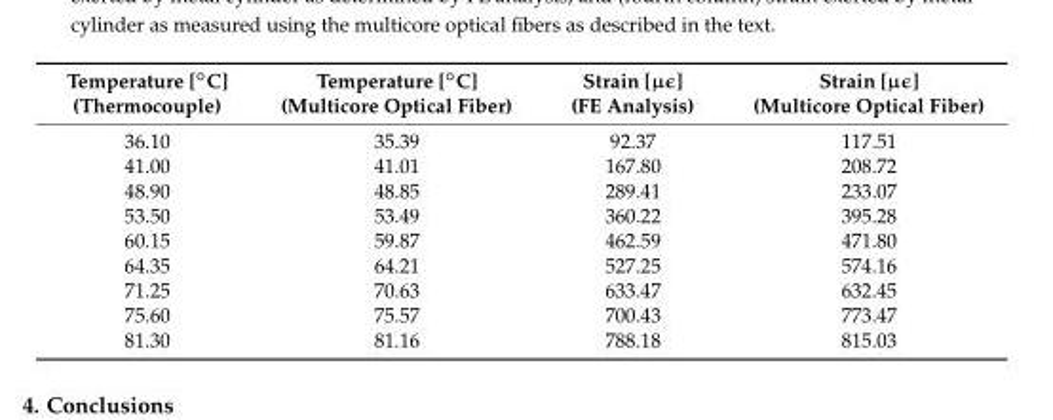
<table><thead><tr><td>Temperature [◦C] (Thermocouple)</td><td>Temperature [◦C] (Multicore Optical Fiber)</td><td>Strain [µϵ] (FE Analysis)</td><td>Strain [µϵ] (Multicore Optical Fiber)</td></tr></thead><tbody><tr><td>36.10</td><td>35.39</td><td>92.37</td><td>117.51</td></tr><tr><td>41.00</td><td>41.01</td><td>167.80</td><td>208.72</td></tr><tr><td>48.90</td><td>48.85</td><td>289.41</td><td>233.07</td></tr><tr><td>53.50</td><td>53.49</td><td>360.22</td><td>395.28</td></tr><tr><td>60.15</td><td>59.87</td><td>462.59</td><td>471.80</td></tr><tr><td>64.35</td><td>64.21</td><td>527.25</td><td>574.16</td></tr><tr><td>71.25</td><td>70.63</td><td>633.47</td><td>632.45</td></tr><tr><td>75.60</td><td>75.57</td><td>700.43</td><td>773.47</td></tr><tr><td>81.30</td><td>81.16</td><td>788.18</td><td>815.03</td></tr></tbody></table>